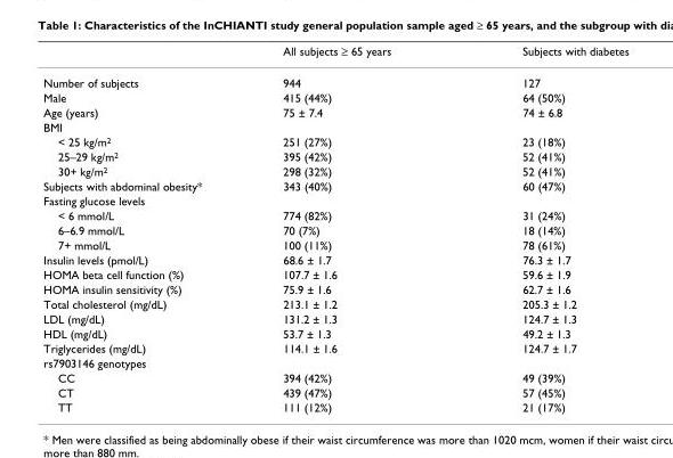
<table><thead><tr><td></td><td>All subjects ≥ 65 years</td><td>Subjects with diabetes</td></tr></thead><tbody><tr><td>Number of subjects</td><td>944</td><td>127</td></tr><tr><td>Male</td><td>415 (44%)</td><td>64 (50%)</td></tr><tr><td>Age (years)</td><td>75 ± 7.4</td><td>74 ± 6.8</td></tr><tr><td colspan="3">BMI</td></tr><tr><td>&lt; 25 kg/m2</td><td>251 (27%)</td><td>23 (18%)</td></tr><tr><td>25–29 kg/m2</td><td>395 (42%)</td><td>52 (41%)</td></tr><tr><td>30+ kg/m2</td><td>298 (32%)</td><td>52 (41%)</td></tr><tr><td>Subjects with abdominal obesity*</td><td>343 (40%)</td><td>60 (47%)</td></tr><tr><td colspan="3">Fasting glucose levels</td></tr><tr><td>&lt; 6 mmol/L</td><td>774 (82%)</td><td>31 (24%)</td></tr><tr><td>6–6.9 mmol/L</td><td>70 (7%)</td><td>18 (14%)</td></tr><tr><td>7+ mmol/L</td><td>100 (11%)</td><td>78 (61%)</td></tr><tr><td>Insulin levels (pmol/L)</td><td>68.6 ± 1.7</td><td>76.3 ± 1.7</td></tr><tr><td>HOMA beta cell function (%)</td><td>107.7 ± 1.6</td><td>59.6 ± 1.9</td></tr><tr><td>HOMA insulin sensitivity (%)</td><td>75.9 ± 1.6</td><td>62.7 ± 1.6</td></tr><tr><td>Total cholesterol (mg/dL)</td><td>213.1 ± 1.2</td><td>205.3 ± 1.2</td></tr><tr><td>LDL (mg/dL)</td><td>131.2 ± 1.3</td><td>124.7 ± 1.3</td></tr><tr><td>HDL (mg/dL)</td><td>53.7 ± 1.3</td><td>49.2 ± 1.3</td></tr><tr><td>Triglycerides (mg/dL)</td><td>114.1 ± 1.6</td><td>124.7 ± 1.7</td></tr><tr><td colspan="3">rs7903146 genotypes</td></tr><tr><td>CC</td><td>394 (42%)</td><td>49 (39%)</td></tr><tr><td>CT</td><td>439 (47%)</td><td>57 (45%)</td></tr><tr><td>TT</td><td>111 (12%)</td><td>21 (17%)</td></tr></tbody></table>